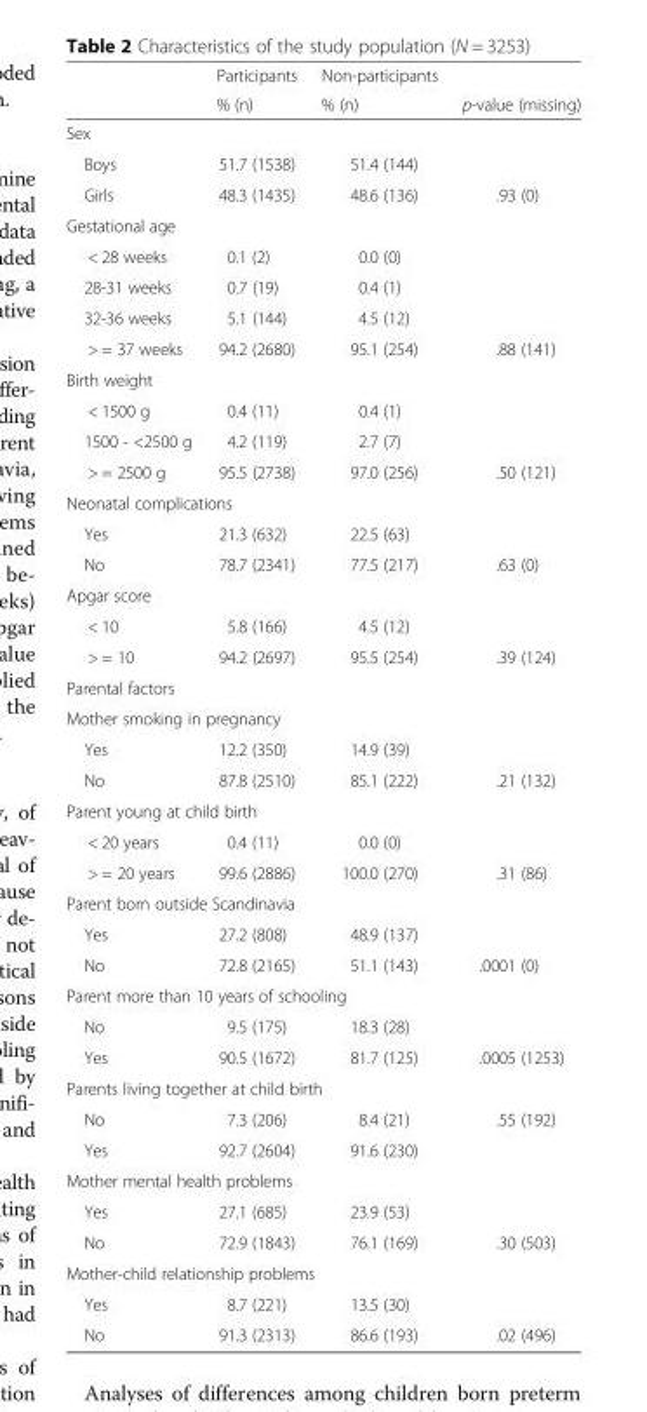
<table><thead><tr><td rowspan="2"></td><td rowspan="2">Participants % (n)</td><td rowspan="2">Non-participants % (n)</td><td rowspan="2">p-value (missing)</td></tr><tr></tr></thead><tbody><tr><td colspan="4">Sex</td></tr><tr><td>Boys</td><td>51.7 (1538)</td><td>51.4 (144)</td><td></td></tr><tr><td>Girls</td><td>48.3 (1435)</td><td>48.6 (136)</td><td>.93 (0)</td></tr><tr><td colspan="4">Gestational age</td></tr><tr><td>&lt; 28 weeks</td><td>0.1 (2)</td><td>0.0 (0)</td><td></td></tr><tr><td>28-31 weeks</td><td>0.7 (19)</td><td>0.4 (1)</td><td></td></tr><tr><td>32-36 weeks</td><td>5.1 (144)</td><td>4.5 (12)</td><td></td></tr><tr><td>&gt; = 37 weeks</td><td>94.2 (2680)</td><td>95.1 (254)</td><td>.88 (141)</td></tr><tr><td colspan="4">Birth weight</td></tr><tr><td>&lt; 1500 g</td><td>0.4 (11)</td><td>0.4 (1)</td><td></td></tr><tr><td>1500 - &lt;2500 g</td><td>4.2 (119)</td><td>2.7 (7)</td><td></td></tr><tr><td>&gt; = 2500 g</td><td>95.5 (2738)</td><td>97.0 (256)</td><td>.50 (121)</td></tr><tr><td colspan="4">Neonatal complications</td></tr><tr><td>Yes</td><td>21.3 (632)</td><td>22.5 (63)</td><td></td></tr><tr><td>No</td><td>78.7 (2341)</td><td>77.5 (217)</td><td>.63 (0)</td></tr><tr><td colspan="4">Apgar score</td></tr><tr><td>&lt; 10</td><td>5.8 (166)</td><td>4.5 (12)</td><td></td></tr><tr><td>&gt; = 10</td><td>94.2 (2697)</td><td>95.5 (254)</td><td>.39 (124)</td></tr><tr><td colspan="4">Parental factors</td></tr><tr><td colspan="4">Mother smoking in pregnancy</td></tr><tr><td>Yes</td><td>12.2 (350)</td><td>14.9 (39)</td><td></td></tr><tr><td>No</td><td>87.8 (2510)</td><td>85.1 (222)</td><td>.21 (132)</td></tr><tr><td colspan="4">Parent young at child birth</td></tr><tr><td>&lt; 20 years</td><td>0.4 (11)</td><td>0.0 (0)</td><td></td></tr><tr><td>&gt; = 20 years</td><td>99.6 (2886)</td><td>100.0 (270)</td><td>.31 (86)</td></tr><tr><td colspan="4">Parent born outside Scandinavia</td></tr><tr><td>Yes</td><td>27.2 (808)</td><td>48.9 (137)</td><td></td></tr><tr><td>No</td><td>72.8 (2165)</td><td>51.1 (143)</td><td>.0001 (0)</td></tr><tr><td colspan="4">Parent more than 10 years of schooling</td></tr><tr><td>No</td><td>9.5 (175)</td><td>18.3 (28)</td><td></td></tr><tr><td>Yes</td><td>90.5 (1672)</td><td>81.7 (125)</td><td>.0005 (1253)</td></tr><tr><td colspan="4">Parents living together at child birth</td></tr><tr><td>No</td><td>7.3 (206)</td><td>8.4 (21)</td><td>.55 (192)</td></tr><tr><td>Yes</td><td>92.7 (2604)</td><td>91.6 (230)</td><td></td></tr><tr><td colspan="4">Mother mental health problems</td></tr><tr><td>Yes</td><td>27.1 (685)</td><td>23.9 (53)</td><td></td></tr><tr><td>No</td><td>72.9 (1843)</td><td>76.1 (169)</td><td>.30 (503)</td></tr><tr><td colspan="4">Mother-child relationship problems</td></tr><tr><td>Yes</td><td>8.7 (221)</td><td>13.5 (30)</td><td></td></tr><tr><td>No</td><td>91.3 (2313)</td><td>86.6 (193)</td><td>.02 (496)</td></tr></tbody></table>